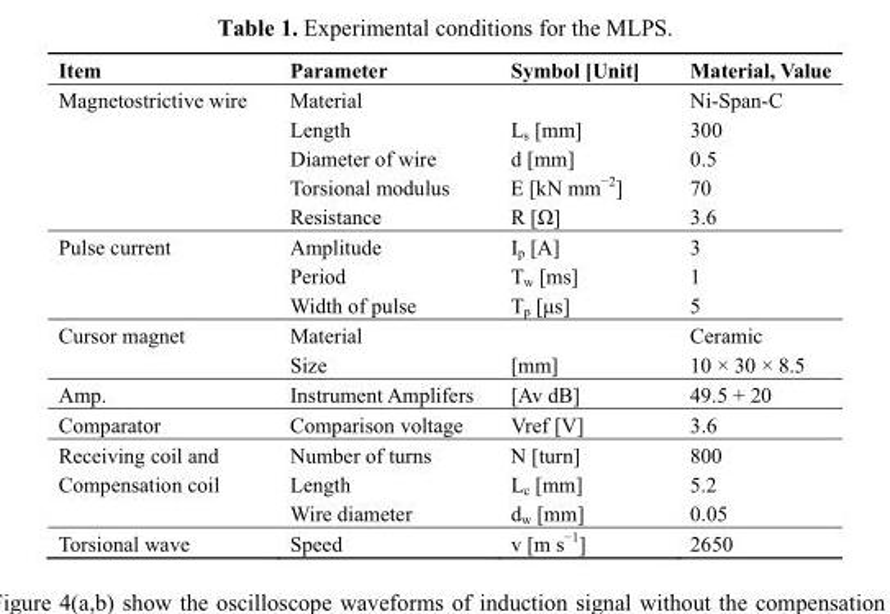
<table><thead><tr><td>Item</td><td>Parameter</td><td>Symbol [Unit]</td><td>Material, Value</td></tr></thead><tbody><tr><td rowspan="5">Magnetostrictive wire</td><td>Material</td><td></td><td>Ni-Span-C</td></tr><tr><td>Length</td><td>L<sub>s</sub> [mm]</td><td>300</td></tr><tr><td>Diameter of wire</td><td>d [mm]</td><td>0.5</td></tr><tr><td>Torsional modulus</td><td>E [kN mm<sup>−2</sup>]</td><td>70</td></tr><tr><td>Resistance</td><td>R [Ω]</td><td>3.6</td></tr><tr><td rowspan="3">Pulse current</td><td>Amplitude</td><td>I<sub>p</sub> [A]</td><td>3</td></tr><tr><td>Period</td><td>T<sub>w</sub> [ms]</td><td>1</td></tr><tr><td>Width of pulse</td><td>T<sub>p</sub> [μs]</td><td>5</td></tr><tr><td rowspan="2">Cursor magnet</td><td>Material</td><td></td><td>Ceramic</td></tr><tr><td>Size</td><td>[mm]</td><td>10 × 30 × 8.5</td></tr><tr><td>Amp.</td><td>Instrument Amplifers</td><td>[Av dB]</td><td>49.5 + 20</td></tr><tr><td>Comparator</td><td>Comparison voltage</td><td>Vref [V]</td><td>3.6</td></tr><tr><td>Receiving coil and</td><td>Number of turns</td><td>N [turn]</td><td>800</td></tr><tr><td rowspan="2">Compensation coil</td><td>Length</td><td>L<sub>c</sub> [mm]</td><td>5.2</td></tr><tr><td>Wire diameter</td><td>d<sub>w</sub> [mm]</td><td>0.05</td></tr><tr><td>Torsional wave</td><td>Speed</td><td>v [m s<sup>−1</sup>]</td><td>2650</td></tr></tbody></table>